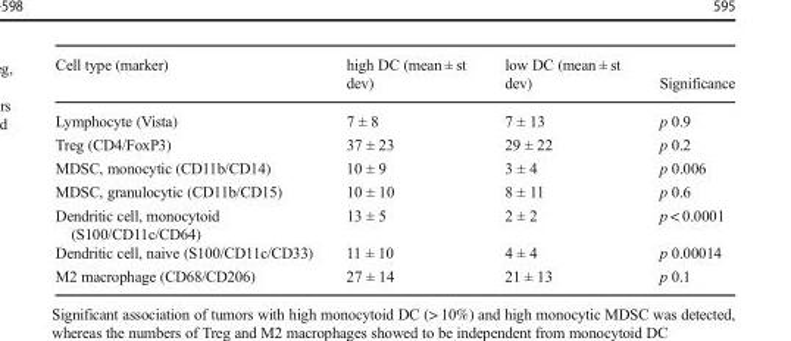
<table><thead><tr><td>Cell type (marker)</td><td>high DC (mean ± st dev)</td><td>low DC (mean ± st dev)</td><td>Significance</td></tr></thead><tbody><tr><td>Lymphocyte (Vista)</td><td>7 ± 8</td><td>7 ± 13</td><td>p 0.9</td></tr><tr><td>Treg (CD4/FoxP3)</td><td>37 ± 23</td><td>29 ± 22</td><td>p 0.2</td></tr><tr><td>MDSC, monocytic (CD11b/CD14)</td><td>10 ± 9</td><td>3 ± 4</td><td>p 0.006</td></tr><tr><td>MDSC, granulocytic (CD11b/CD15)</td><td>10 ± 10</td><td>8 ± 11</td><td>p 0.6</td></tr><tr><td>Dendritic cell, monocytoid (S100/CD11c/CD64)</td><td>13 ± 5</td><td>2 ± 2</td><td>p &lt; 0.0001</td></tr><tr><td>Dendritic cell, naive (S100/CD11c/CD33)</td><td>11 ± 10</td><td>4 ± 4</td><td>p 0.00014</td></tr><tr><td>M2 macrophage (CD68/CD206)</td><td>27 ± 14</td><td>21 ± 13</td><td>p 0.1</td></tr></tbody></table>